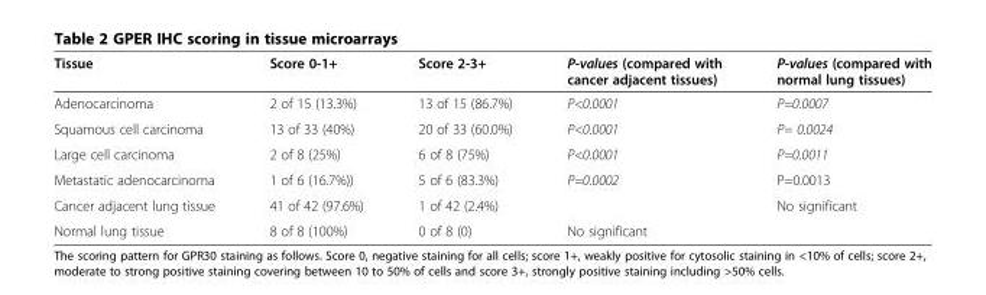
<table><thead><tr><td>Tissue</td><td>Score 0-1+</td><td>Score 2-3+</td><td>P-values (compared with cancer adjacent tissues)</td><td>P-values (compared with normal lung tissues)</td></tr></thead><tbody><tr><td>Adenocarcinoma</td><td>2 of 15 (13.3%)</td><td>13 of 15 (86.7%)</td><td>P&lt;0.0001</td><td>P=0.0007</td></tr><tr><td>Squamous cell carcinoma</td><td>13 of 33 (40%)</td><td>20 of 33 (60.0%)</td><td>P&lt;0.0001</td><td>P= 0.0024</td></tr><tr><td>Large cell carcinoma</td><td>2 of 8 (25%)</td><td>6 of 8 (75%)</td><td>P&lt;0.0001</td><td>P=0.0011</td></tr><tr><td>Metastatic adenocarcinoma</td><td>1 of 6 (16.7%))</td><td>5 of 6 (83.3%)</td><td>P=0.0002</td><td>P=0.0013</td></tr><tr><td>Cancer adjacent lung tissue</td><td>41 of 42 (97.6%)</td><td>1 of 42 (2.4%)</td><td></td><td>No significant</td></tr><tr><td>Normal lung tissue</td><td>8 of 8 (100%)</td><td>0 of 8 (0)</td><td>No significant</td><td></td></tr></tbody></table>